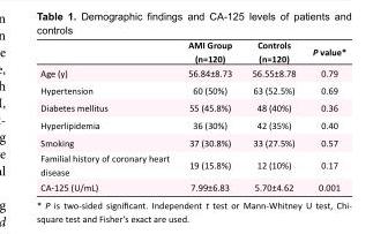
<table><thead><tr><td></td><td>AMI Group (n=120)</td><td>Controls (n=120)</td><td>P value*</td></tr></thead><tbody><tr><td>Age (y)</td><td>56.84±8.73</td><td>56.55±8.78</td><td>0.79</td></tr><tr><td>Hypertension</td><td>60 (50%)</td><td>63 (52.5%)</td><td>0.69</td></tr><tr><td>Diabetes mellitus</td><td>55 (45.8%)</td><td>48 (40%)</td><td>0.36</td></tr><tr><td>Hyperlipidemia</td><td>36 (30%)</td><td>42 (35%)</td><td>0.40</td></tr><tr><td>Smoking</td><td>37 (30.8%)</td><td>33 (27.5%)</td><td>0.57</td></tr><tr><td>Familial history of coronary heart disease</td><td>19 (15.8%)</td><td>12 (10%)</td><td>0.17</td></tr><tr><td>CA-125 (U/mL)</td><td>7.99±6.83</td><td>5.70±4.62</td><td>0.001</td></tr></tbody></table>